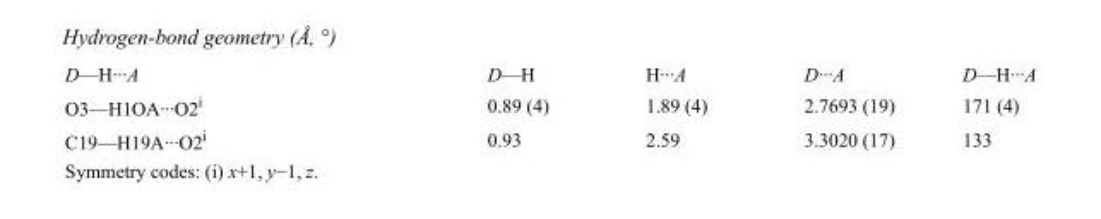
<table><tbody><tr><td>D—H···A</td><td>D—H</td><td>H···A</td><td>D···A</td><td>D—H···A</td></tr><tr><td>O3—H1OA···O2<sup>i</sup></td><td>0.89 (4)</td><td>1.89 (4)</td><td>2.7693 (19)</td><td>171 (4)</td></tr><tr><td>C19—H19A···O2<sup>i</sup></td><td>0.93</td><td>2.59</td><td>3.3020 (17)</td><td>133</td></tr></tbody></table>